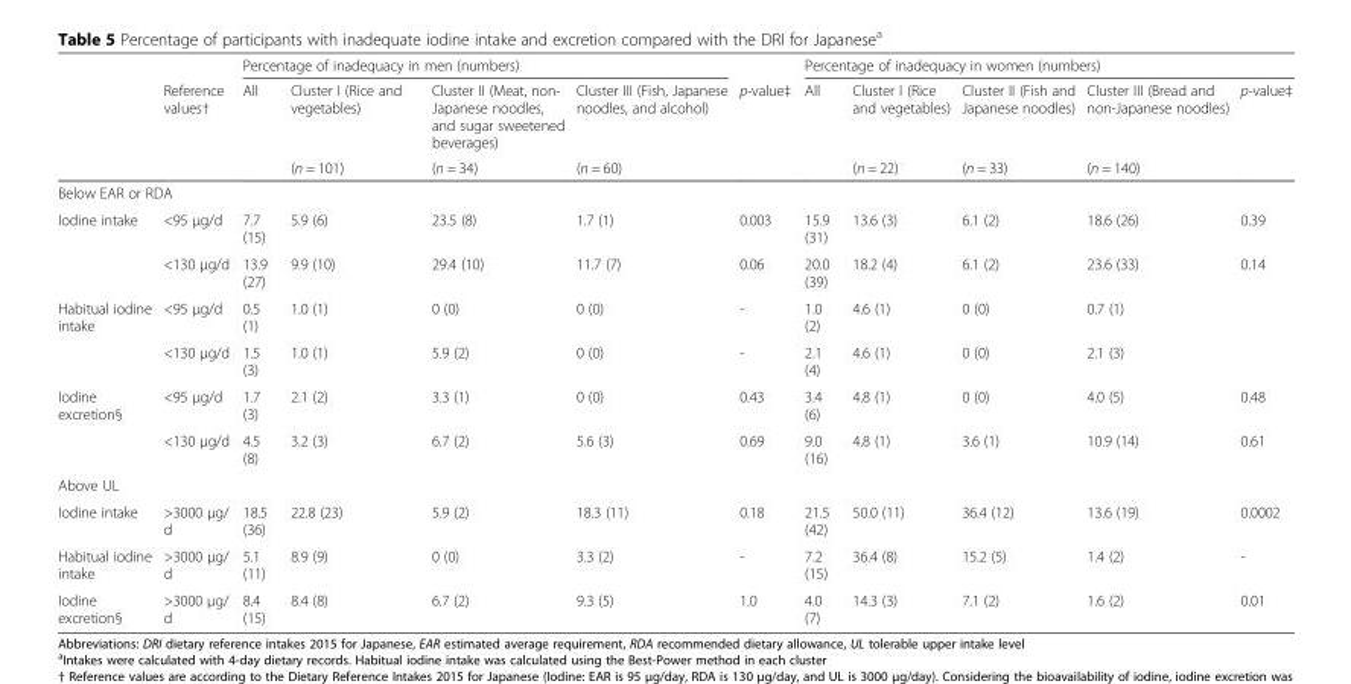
<table><thead><tr><td rowspan="3"></td><td rowspan="3">Reference values†</td><td colspan="4">Percentage of inadequacy in men (numbers)</td><td rowspan="3">p-value‡</td><td colspan="5">Percentage of inadequacy in women (numbers)</td></tr><tr><td rowspan="2">All</td><td rowspan="2">Cluster I (Rice and vegetables) (n = 101)</td><td rowspan="2">Cluster II (Meat, non- Japanese noodles, and sugar sweetened beverages) (n = 34)</td><td rowspan="2">Cluster III (Fish, Japanese noodles, and alcohol) (n = 60)</td><td rowspan="2">All</td><td rowspan="2">Cluster I (Rice and vegetables) (n = 22)</td><td rowspan="2">Cluster II (Fish and Japanese noodles) (n = 33)</td><td rowspan="2">Cluster III (Bread and non-Japanese noodles) (n = 140)</td><td rowspan="2">p-value‡</td></tr><tr></tr></thead><tbody><tr><td colspan="12">Below EAR or RDA</td></tr><tr><td rowspan="2">Iodine intake</td><td>&lt;95 μg/d</td><td>7.7 (15)</td><td>5.9 (6)</td><td>23.5 (8)</td><td>1.7 (1)</td><td>0.003</td><td>15.9 (31)</td><td>13.6 (3)</td><td>6.1 (2)</td><td>18.6 (26)</td><td>0.39</td></tr><tr><td>&lt;130 μg/d</td><td>13.9 (27)</td><td>9.9 (10)</td><td>29.4 (10)</td><td>11.7 (7)</td><td>0.06</td><td>20.0 (39)</td><td>18.2 (4)</td><td>6.1 (2)</td><td>23.6 (33)</td><td>0.14</td></tr><tr><td rowspan="2">Habitual iodine intake</td><td>&lt;95 μg/d</td><td>0.5 (1)</td><td>1.0 (1)</td><td>0 (0)</td><td>0 (0)</td><td>-</td><td>1.0 (2)</td><td>4.6 (1)</td><td>0 (0)</td><td>0.7 (1)</td><td></td></tr><tr><td>&lt;130 μg/d</td><td>1.5 (3)</td><td>1.0 (1)</td><td>5.9 (2)</td><td>0 (0)</td><td>-</td><td>2.1 (4)</td><td>4.6 (1)</td><td>0 (0)</td><td>2.1 (3)</td><td></td></tr><tr><td rowspan="2">Iodine excretion§</td><td>&lt;95 μg/d</td><td>1.7 (3)</td><td>2.1 (2)</td><td>3.3 (1)</td><td>0 (0)</td><td>0.43</td><td>3.4 (6)</td><td>4.8 (1)</td><td>0 (0)</td><td>4.0 (5)</td><td>0.48</td></tr><tr><td>&lt;130 μg/d</td><td>4.5 (8)</td><td>3.2 (3)</td><td>6.7 (2)</td><td>5.6 (3)</td><td>0.69</td><td>9.0 (16)</td><td>4.8 (1)</td><td>3.6 (1)</td><td>10.9 (14)</td><td>0.61</td></tr><tr><td colspan="12">Above UL</td></tr><tr><td>Iodine intake</td><td>&gt;3000 μg/ d</td><td>18.5 (36)</td><td>22.8 (23)</td><td>5.9 (2)</td><td>18.3 (11)</td><td>0.18</td><td>21.5 (42)</td><td>50.0 (11)</td><td>36.4 (12)</td><td>13.6 (19)</td><td>0.0002</td></tr><tr><td>Habitual iodine intake</td><td>&gt;3000 μg/ d</td><td>5.1 (11)</td><td>8.9 (9)</td><td>0 (0)</td><td>3.3 (2)</td><td>-</td><td>7.2 (15)</td><td>36.4 (8)</td><td>15.2 (5)</td><td>1.4 (2)</td><td>-</td></tr><tr><td>Iodine excretion§</td><td>&gt;3000 μg/ d</td><td>8.4 (15)</td><td>8.4 (8)</td><td>6.7 (2)</td><td>9.3 (5)</td><td>1.0</td><td>4.0 (7)</td><td>14.3 (3)</td><td>7.1 (2)</td><td>1.6 (2)</td><td>0.01</td></tr></tbody></table>